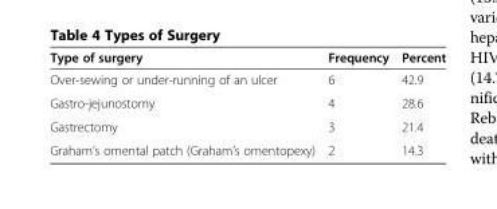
<table><thead><tr><td>Type of surgery</td><td>Frequency</td><td>Percent</td></tr></thead><tbody><tr><td>Over-sewing or under-running of an ulcer</td><td>6</td><td>42.9</td></tr><tr><td>Gastro-jejunostomy</td><td>4</td><td>28.6</td></tr><tr><td>Gastrectomy</td><td>3</td><td>21.4</td></tr><tr><td>Graham’s omental patch (Graham’s omentopexy)</td><td>2</td><td>14.3</td></tr></tbody></table>